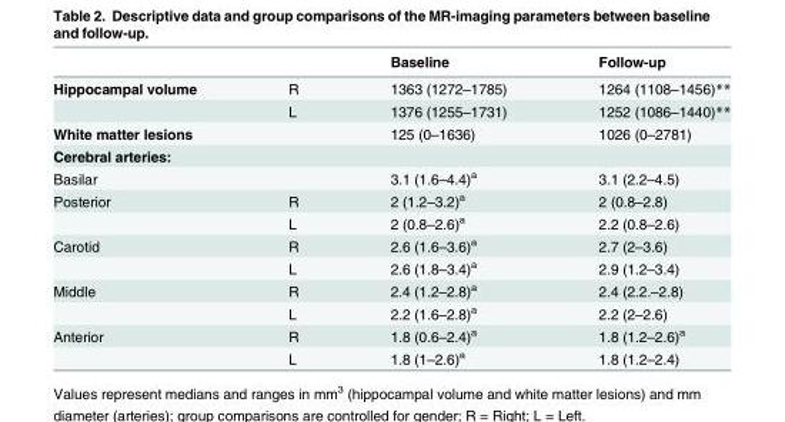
<table><thead><tr><td></td><td></td><td>Baseline</td><td>Follow-up</td></tr></thead><tbody><tr><td rowspan="2">Hippocampal volume</td><td>R</td><td>1363 (1272–1785)</td><td>1264 (1108–1456)**</td></tr><tr><td>L</td><td>1376 (1255–1731)</td><td>1252 (1086–1440)**</td></tr><tr><td>White matter lesions</td><td></td><td>125 (0–1636)</td><td>1026 (0–2781)</td></tr><tr><td colspan="4">Cerebral arteries:</td></tr><tr><td>Basilar</td><td></td><td>3.1 (1.6–4.4)a</td><td>3.1 (2.2–4.5)</td></tr><tr><td rowspan="2">Posterior</td><td>R</td><td>2 (1.2–3.2)a</td><td>2 (0.8–2.8)</td></tr><tr><td>L</td><td>2 (0.8–2.6)a</td><td>2.2 (0.8–2.6)</td></tr><tr><td rowspan="2">Carotid</td><td>R</td><td>2.6 (1.6–3.6)a</td><td>2.7 (2–3.6)</td></tr><tr><td>L</td><td>2.6 (1.8–3.4)a</td><td>2.9 (1.2–3.4)</td></tr><tr><td rowspan="2">Middle</td><td>R</td><td>2.4 (1.2–2.8)a</td><td>2.4 (2.2.–2.8)</td></tr><tr><td>L</td><td>2.2 (1.6–2.8)a</td><td>2.2 (2–2.6)</td></tr><tr><td rowspan="2">Anterior</td><td>R</td><td>1.8 (0.6–2.4)a</td><td>1.8 (1.2–2.6)a</td></tr><tr><td>L</td><td>1.8 (1–2.6)a</td><td>1.8 (1.2–2.4)</td></tr></tbody></table>